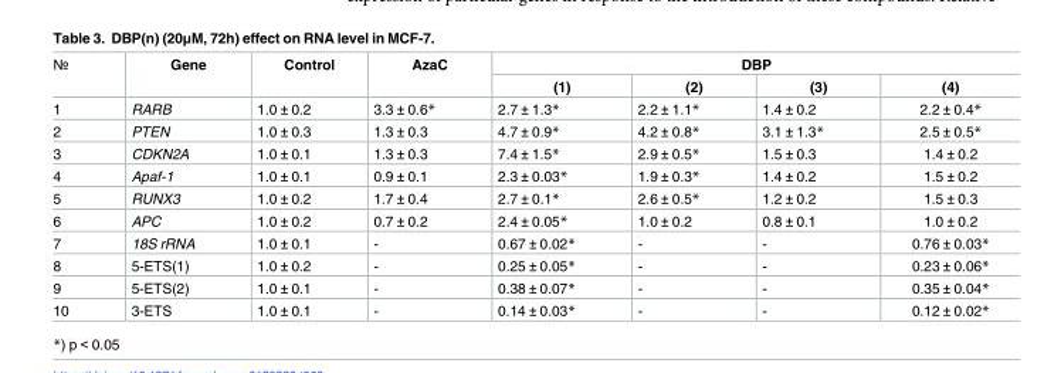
<table><thead><tr><td rowspan="2">№</td><td rowspan="2">Gene</td><td rowspan="2">Control</td><td rowspan="2">AzaC</td><td colspan="4">DBP</td></tr><tr><td>(1)</td><td>(2)</td><td>(3)</td><td>(4)</td></tr></thead><tbody><tr><td>1</td><td>RARB</td><td>1.0 ± 0.2</td><td>3.3 ± 0.6*</td><td>2.7 ± 1.3*</td><td>2.2 ± 1.1*</td><td>1.4 ± 0.2</td><td>2.2 ± 0.4*</td></tr><tr><td>2</td><td>PTEN</td><td>1.0 ± 0.3</td><td>1.3 ± 0.3</td><td>4.7 ± 0.9*</td><td>4.2 ± 0.8*</td><td>3.1 ± 1.3*</td><td>2.5 ± 0.5*</td></tr><tr><td>3</td><td>CDKN2A</td><td>1.0 ± 0.1</td><td>1.3 ± 0.3</td><td>7.4 ± 1.5*</td><td>2.9 ± 0.5*</td><td>1.5 ± 0.3</td><td>1.4 ± 0.2</td></tr><tr><td>4</td><td>Apaf-1</td><td>1.0 ± 0.1</td><td>0.9 ± 0.1</td><td>2.3 ± 0.03*</td><td>1.9 ± 0.3*</td><td>1.4 ± 0.2</td><td>1.5 ± 0.2</td></tr><tr><td>5</td><td>RUNX3</td><td>1.0 ± 0.2</td><td>1.7 ± 0.4</td><td>2.7 ± 0.1*</td><td>2.6 ± 0.5*</td><td>1.2 ± 0.2</td><td>1.5 ± 0.3</td></tr><tr><td>6</td><td>APC</td><td>1.0 ± 0.2</td><td>0.7 ± 0.2</td><td>2.4 ± 0.05*</td><td>1.0 ± 0.2</td><td>0.8 ± 0.1</td><td>1.0 ± 0.2</td></tr><tr><td>7</td><td>18S rRNA</td><td>1.0 ± 0.1</td><td>-</td><td>0.67 ± 0.02*</td><td>-</td><td>-</td><td>0.76 ± 0.03*</td></tr><tr><td>8</td><td>5-ETS(1)</td><td>1.0 ± 0.2</td><td>-</td><td>0.25 ± 0.05*</td><td>-</td><td>-</td><td>0.23 ± 0.06*</td></tr><tr><td>9</td><td>5-ETS(2)</td><td>1.0 ± 0.1</td><td>-</td><td>0.38 ± 0.07*</td><td>-</td><td>-</td><td>0.35 ± 0.04*</td></tr><tr><td>10</td><td>3-ETS</td><td>1.0 ± 0.1</td><td>-</td><td>0.14 ± 0.03*</td><td>-</td><td>-</td><td>0.12 ± 0.02*</td></tr></tbody></table>